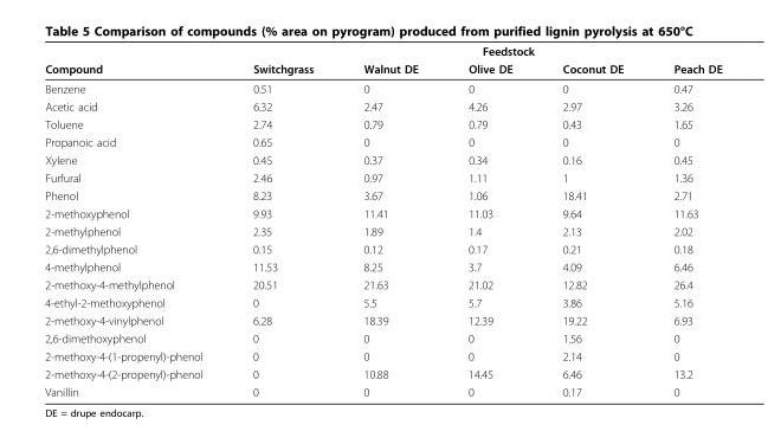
<table><thead><tr><td rowspan="2">Compound</td><td colspan="5">Feedstock</td></tr><tr><td>Switchgrass</td><td>Walnut DE</td><td>Olive DE</td><td>Coconut DE</td><td>Peach DE</td></tr></thead><tbody><tr><td>Benzene</td><td>0.51</td><td>0</td><td>0</td><td>0</td><td>0.47</td></tr><tr><td>Acetic acid</td><td>6.32</td><td>2.47</td><td>4.26</td><td>2.97</td><td>3.26</td></tr><tr><td>Toluene</td><td>2.74</td><td>0.79</td><td>0.79</td><td>0.43</td><td>1.65</td></tr><tr><td>Propanoic acid</td><td>0.65</td><td>0</td><td>0</td><td>0</td><td>0</td></tr><tr><td>Xylene</td><td>0.45</td><td>0.37</td><td>0.34</td><td>0.16</td><td>0.45</td></tr><tr><td>Furfural</td><td>2.46</td><td>0.97</td><td>1.11</td><td>1</td><td>1.36</td></tr><tr><td>Phenol</td><td>8.23</td><td>3.67</td><td>1.06</td><td>18.41</td><td>2.71</td></tr><tr><td>2-methoxyphenol</td><td>9.93</td><td>11.41</td><td>11.03</td><td>9.64</td><td>11.63</td></tr><tr><td>2-methylphenol</td><td>2.35</td><td>1.89</td><td>1.4</td><td>2.13</td><td>2.02</td></tr><tr><td>2,6-dimethylphenol</td><td>0.15</td><td>0.12</td><td>0.17</td><td>0.21</td><td>0.18</td></tr><tr><td>4-methylphenol</td><td>11.53</td><td>8.25</td><td>3.7</td><td>4.09</td><td>6.46</td></tr><tr><td>2-methoxy-4-methylphenol</td><td>20.51</td><td>21.63</td><td>21.02</td><td>12.82</td><td>26.4</td></tr><tr><td>4-ethyl-2-methoxyphenol</td><td>0</td><td>5.5</td><td>5.7</td><td>3.86</td><td>5.16</td></tr><tr><td>2-methoxy-4-vinylphenol</td><td>6.28</td><td>18.39</td><td>12.39</td><td>19.22</td><td>6.93</td></tr><tr><td>2,6-dimethoxyphenol</td><td>0</td><td>0</td><td>0</td><td>1.56</td><td>0</td></tr><tr><td>2-methoxy-4-(1-propenyl)-phenol</td><td>0</td><td>0</td><td>0</td><td>2.14</td><td>0</td></tr><tr><td>2-methoxy-4-(2-propenyl)-phenol</td><td>0</td><td>10.88</td><td>14.45</td><td>6.46</td><td>13.2</td></tr><tr><td>Vanillin</td><td>0</td><td>0</td><td>0</td><td>0.17</td><td>0</td></tr></tbody></table>